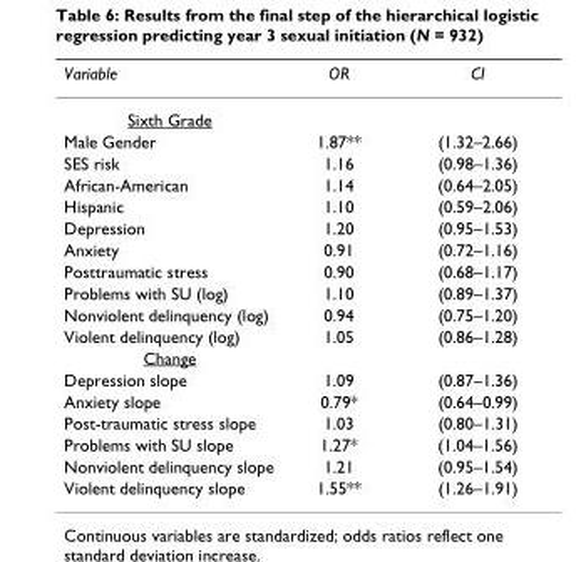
<table><thead><tr><td>Variable</td><td>OR</td><td>CI</td></tr></thead><tbody><tr><td colspan="3">Sixth Grade</td></tr><tr><td>Male Gender</td><td>1.87**</td><td>(1.32–2.66)</td></tr><tr><td>SES risk</td><td>1.16</td><td>(0.98–1.36)</td></tr><tr><td>African-American</td><td>1.14</td><td>(0.64–2.05)</td></tr><tr><td>Hispanic</td><td>1.10</td><td>(0.59–2.06)</td></tr><tr><td>Depression</td><td>1.20</td><td>(0.95–1.53)</td></tr><tr><td>Anxiety</td><td>0.91</td><td>(0.72–1.16)</td></tr><tr><td>Posttraumatic stress</td><td>0.90</td><td>(0.68–1.17)</td></tr><tr><td>Problems with SU (log)</td><td>1.10</td><td>(0.89–1.37)</td></tr><tr><td>Nonviolent delinquency (log)</td><td>0.94</td><td>(0.75–1.20)</td></tr><tr><td>Violent delinquency (log)</td><td>1.05</td><td>(0.86–1.28)</td></tr><tr><td colspan="3">Change</td></tr><tr><td>Depression slope</td><td>1.09</td><td>(0.87–1.36)</td></tr><tr><td>Anxiety slope</td><td>0.79*</td><td>(0.64–0.99)</td></tr><tr><td>Post-traumatic stress slope</td><td>1.03</td><td>(0.80–1.31)</td></tr><tr><td>Problems with SU slope</td><td>1.27*</td><td>(1.04–1.56)</td></tr><tr><td>Nonviolent delinquency slope</td><td>1.21</td><td>(0.95–1.54)</td></tr><tr><td>Violent delinquency slope</td><td>1.55**</td><td>(1.26–1.91)</td></tr></tbody></table>